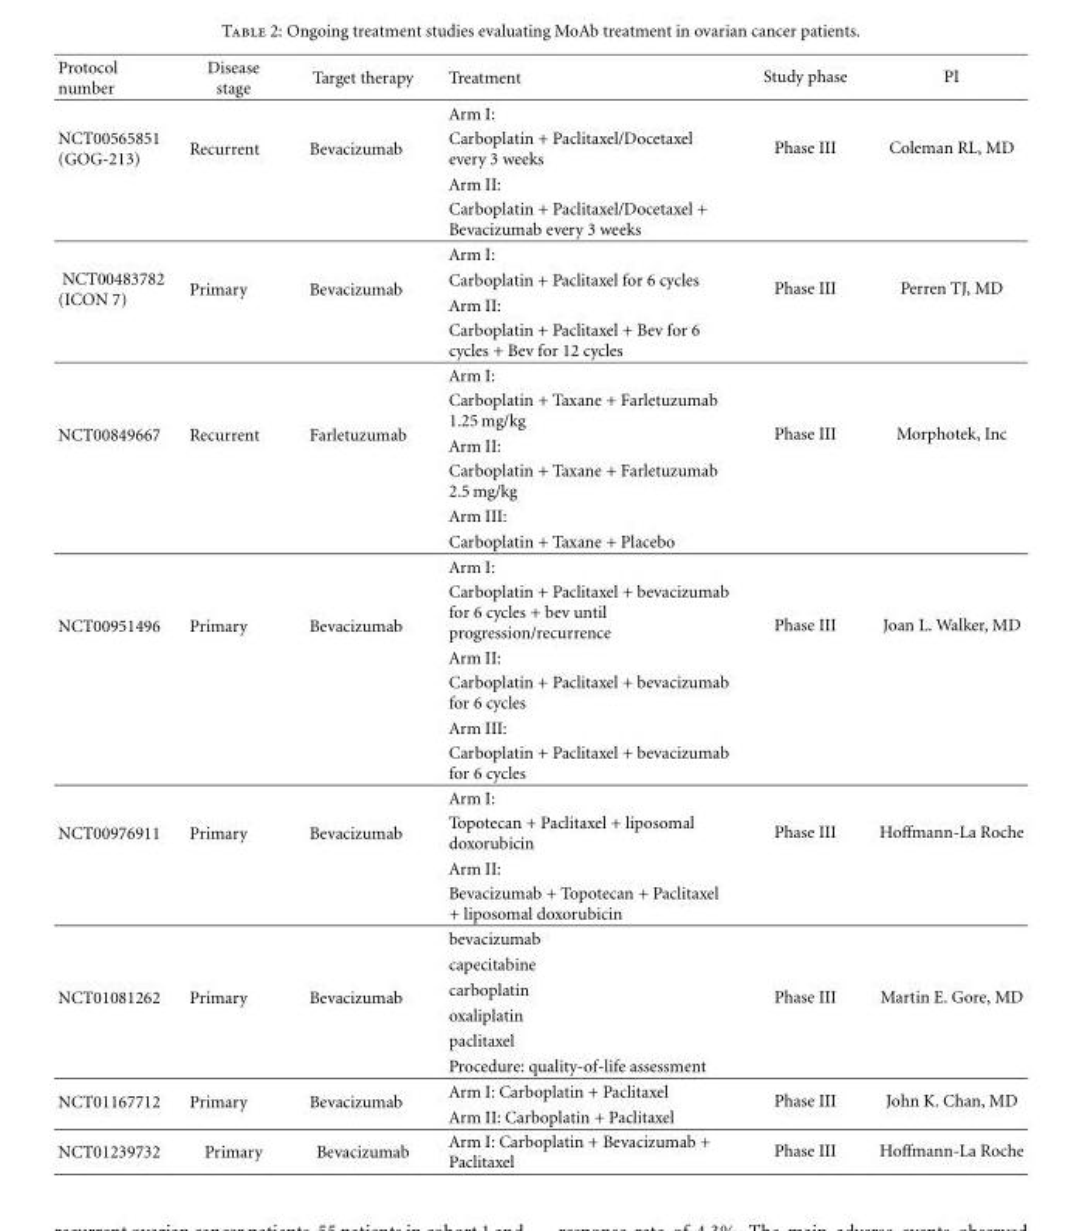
<table><thead><tr><td>Protocol number</td><td>Disease stage</td><td>Target therapy</td><td>Treatment</td><td>Study phase</td><td>PI</td></tr></thead><tbody><tr><td rowspan="4">NCT00565851 (GOG-213)</td><td rowspan="4">Recurrent</td><td rowspan="4">Bevacizumab</td><td>Arm I:</td><td rowspan="4">Phase III</td><td rowspan="4">Coleman RL, MD</td></tr><tr><td>Carboplatin + Paclitaxel/Docetaxel every 3 weeks</td></tr><tr><td>Arm II:</td></tr><tr><td>Carboplatin + Paclitaxel/Docetaxel + Bevacizumab every 3 weeks</td></tr><tr><td rowspan="4">NCT00483782 (ICON 7)</td><td rowspan="4">Primary</td><td rowspan="4">Bevacizumab</td><td>Arm I:</td><td rowspan="4">Phase III</td><td rowspan="4">Perren TJ, MD</td></tr><tr><td>Carboplatin + Paclitaxel for 6 cycles</td></tr><tr><td>Arm II:</td></tr><tr><td>Carboplatin + Paclitaxel + Bev for 6 cycles + Bev for 12 cycles</td></tr><tr><td rowspan="6">NCT00849667</td><td rowspan="6">Recurrent</td><td rowspan="6">Farletuzumab</td><td>Arm I:</td><td rowspan="6">Phase III</td><td rowspan="6">Morphotek, Inc</td></tr><tr><td>Carboplatin + Taxane + Farletuzumab 1.25 mg/kg</td></tr><tr><td>Arm II:</td></tr><tr><td>Carboplatin + Taxane + Farletuzumab 2.5 mg/kg</td></tr><tr><td>Arm III:</td></tr><tr><td>Carboplatin + Taxane + Placebo</td></tr><tr><td rowspan="6">NCT00951496</td><td rowspan="6">Primary</td><td rowspan="6">Bevacizumab</td><td>Arm I:</td><td rowspan="6">Phase III</td><td rowspan="6">Joan L. Walker, MD</td></tr><tr><td>Carboplatin + Paclitaxel + bevacizumab for 6 cycles + bev until progression/recurrence</td></tr><tr><td>Arm II:</td></tr><tr><td>Carboplatin + Paclitaxel + bevacizumab for 6 cycles</td></tr><tr><td>Arm III:</td></tr><tr><td>Carboplatin + Paclitaxel + bevacizumab for 6 cycles</td></tr><tr><td rowspan="4">NCT00976911</td><td rowspan="4">Primary</td><td rowspan="4">Bevacizumab</td><td>Arm I:</td><td rowspan="4">Phase III</td><td rowspan="4">Hoffmann-La Roche</td></tr><tr><td>Topotecan + Paclitaxel + liposomal doxorubicin</td></tr><tr><td>Arm II:</td></tr><tr><td>Bevacizumab + Topotecan + Paclitaxel + liposomal doxorubicin</td></tr><tr><td rowspan="6">NCT01081262</td><td rowspan="6">Primary</td><td rowspan="6">Bevacizumab</td><td>bevacizumab</td><td rowspan="6">Phase III</td><td rowspan="6">Martin E. Gore, MD</td></tr><tr><td>capecitabine</td></tr><tr><td>carboplatin</td></tr><tr><td>oxaliplatin</td></tr><tr><td>paclitaxel</td></tr><tr><td>Procedure: quality-of-life assessment</td></tr><tr><td rowspan="2">NCT01167712</td><td rowspan="2">Primary</td><td rowspan="2">Bevacizumab</td><td>Arm I: Carboplatin + Paclitaxel</td><td rowspan="2">Phase III</td><td rowspan="2">John K. Chan, MD</td></tr><tr><td>Arm II: Carboplatin + Paclitaxel</td></tr><tr><td>NCT01239732</td><td>Primary</td><td>Bevacizumab</td><td>Arm I: Carboplatin + Bevacizumab + Paclitaxel</td><td>Phase III</td><td>Hoffmann-La Roche</td></tr></tbody></table>